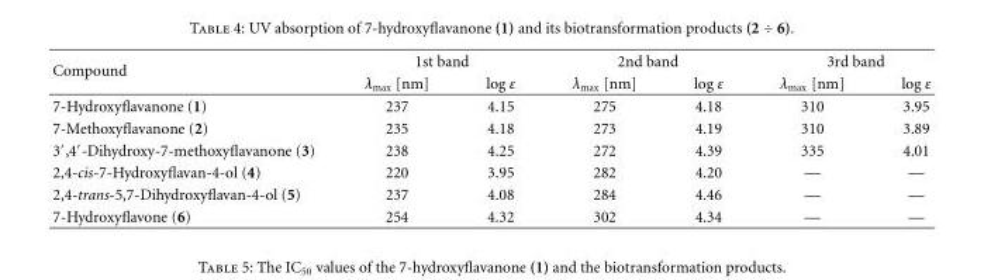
<table><thead><tr><td rowspan="2">Compound</td><td colspan="2">1st band</td><td colspan="2">2nd band</td><td colspan="2">3rd band</td></tr><tr><td>λ<sub>max</sub> [nm]</td><td>log ε</td><td>λ<sub>max</sub> [nm]</td><td>log ε</td><td>λ<sub>max</sub> [nm]</td><td>log ε</td></tr></thead><tbody><tr><td>7-Hydroxyflavanone (1)</td><td>237</td><td>4.15</td><td>275</td><td>4.18</td><td>310</td><td>3.95</td></tr><tr><td>7-Methoxyflavanone (2)</td><td>235</td><td>4.18</td><td>273</td><td>4.19</td><td>310</td><td>3.89</td></tr><tr><td>3′,4′-Dihydroxy-7-methoxyflavanone (3)</td><td>238</td><td>4.25</td><td>272</td><td>4.39</td><td>335</td><td>4.01</td></tr><tr><td>2,4-cis-7-Hydroxyflavan-4-ol (4)</td><td>220</td><td>3.95</td><td>282</td><td>4.20</td><td>—</td><td>—</td></tr><tr><td>2,4-trans-5,7-Dihydroxyflavan-4-ol (5)</td><td>237</td><td>4.08</td><td>284</td><td>4.46</td><td>—</td><td>—</td></tr><tr><td>7-Hydroxyflavone (6)</td><td>254</td><td>4.32</td><td>302</td><td>4.34</td><td>—</td><td>—</td></tr></tbody></table>